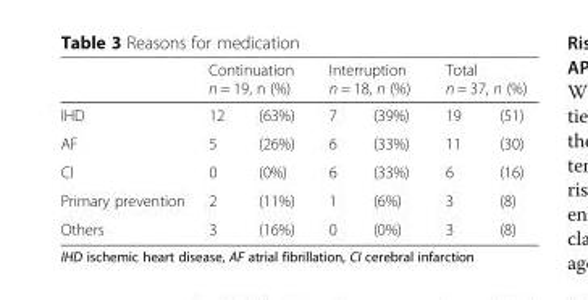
<table><thead><tr><td rowspan="2">IHD</td><td colspan="2">Continuation n = 19, n (%)</td><td colspan="2">Interruption n = 18, n (%)</td><td colspan="2">Total n = 37, n (%)</td></tr><tr><td>12</td><td>(63%)</td><td>7</td><td>(39%)</td><td>19</td><td>(51)</td></tr></thead><tbody><tr><td>AF</td><td>5</td><td>(26%)</td><td>6</td><td>(33%)</td><td>11</td><td>(30)</td></tr><tr><td>CI</td><td>0</td><td>(0%)</td><td>6</td><td>(33%)</td><td>6</td><td>(16)</td></tr><tr><td>Primary prevention</td><td>2</td><td>(11%)</td><td>1</td><td>(6%)</td><td>3</td><td>(8)</td></tr><tr><td>Others</td><td>3</td><td>(16%)</td><td>0</td><td>(0%)</td><td>3</td><td>(8)</td></tr></tbody></table>